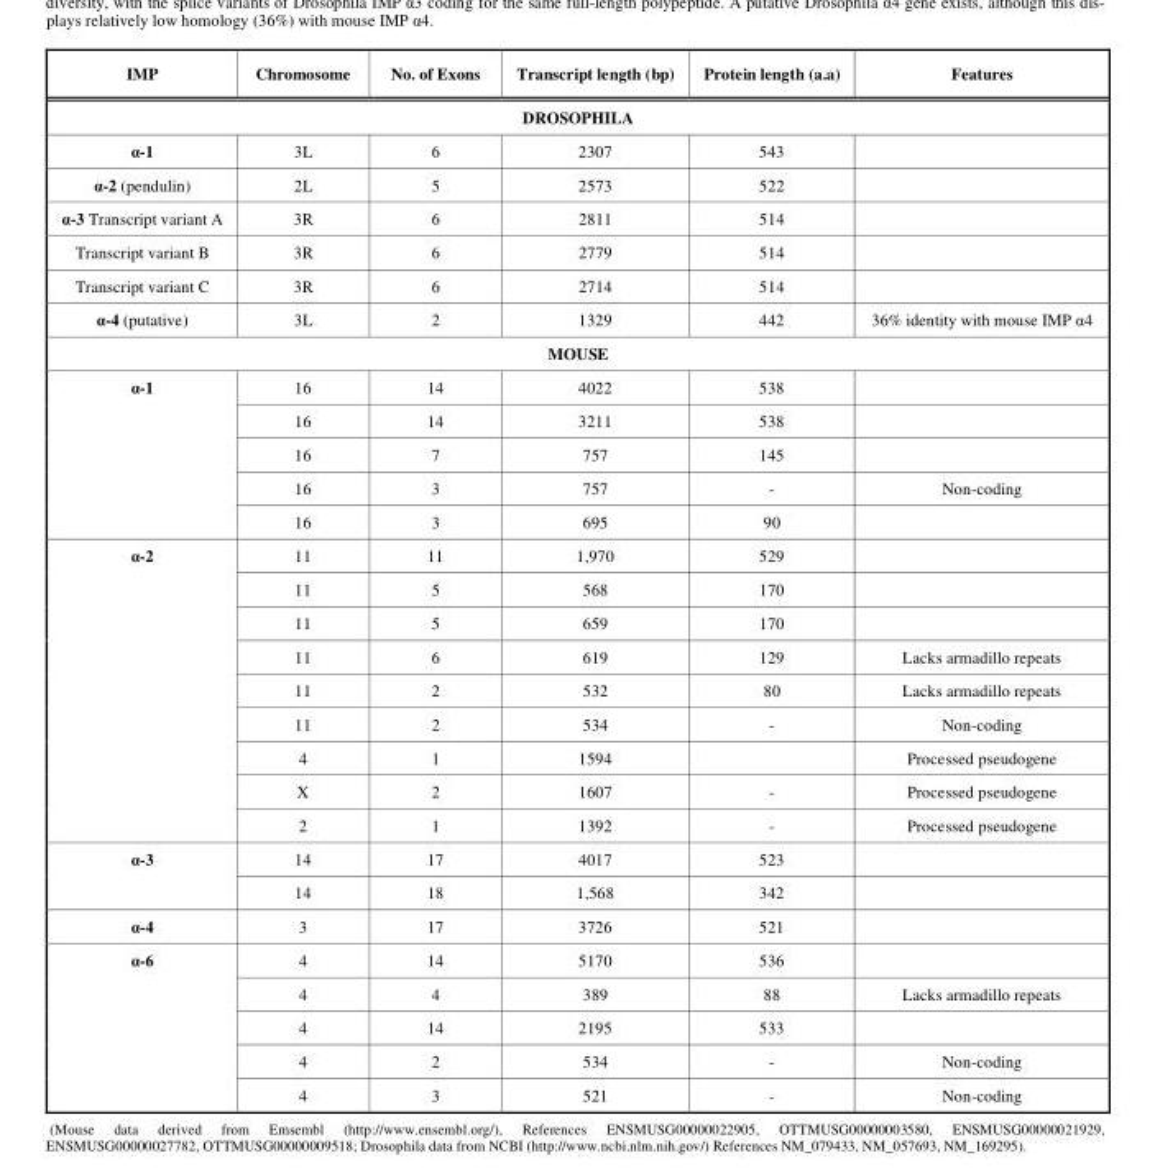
<table><thead><tr><td>IMP</td><td>Chromosome</td><td>No. of Exons</td><td>Transcript length (bp)</td><td>Protein length (a.a)</td><td>Features</td></tr></thead><tbody><tr><td colspan="6">DROSOPHILA</td></tr><tr><td>α-1</td><td>3L</td><td>6</td><td>2307</td><td>543</td><td></td></tr><tr><td>α-2 (pendulin)</td><td>2L</td><td>5</td><td>2573</td><td>522</td><td></td></tr><tr><td>α-3 Transcript variant A</td><td>3R</td><td>6</td><td>2811</td><td>514</td><td></td></tr><tr><td>Transcript variant B</td><td>3R</td><td>6</td><td>2779</td><td>514</td><td></td></tr><tr><td>Transcript variant C</td><td>3R</td><td>6</td><td>2714</td><td>514</td><td></td></tr><tr><td>α-4 (putative)</td><td>3L</td><td>2</td><td>1329</td><td>442</td><td>36% identity with mouse IMP α4</td></tr><tr><td colspan="6">MOUSE</td></tr><tr><td rowspan="5">α-1</td><td>16</td><td>14</td><td>4022</td><td>538</td><td></td></tr><tr><td>16</td><td>14</td><td>3211</td><td>538</td><td></td></tr><tr><td>16</td><td>7</td><td>757</td><td>145</td><td></td></tr><tr><td>16</td><td>3</td><td>757</td><td>-</td><td>Non-coding</td></tr><tr><td>16</td><td>3</td><td>695</td><td>90</td><td></td></tr><tr><td rowspan="9">α-2</td><td>11</td><td>11</td><td>1,970</td><td>529</td><td></td></tr><tr><td>11</td><td>5</td><td>568</td><td>170</td><td></td></tr><tr><td>11</td><td>5</td><td>659</td><td>170</td><td></td></tr><tr><td>11</td><td>6</td><td>619</td><td>129</td><td>Lacks armadillo repeats</td></tr><tr><td>11</td><td>2</td><td>532</td><td>80</td><td>Lacks armadillo repeats</td></tr><tr><td>11</td><td>2</td><td>534</td><td>-</td><td>Non-coding</td></tr><tr><td>4</td><td>1</td><td>1594</td><td></td><td>Processed pseudogene</td></tr><tr><td>X</td><td>2</td><td>1607</td><td>-</td><td>Processed pseudogene</td></tr><tr><td>2</td><td>1</td><td>1392</td><td>-</td><td>Processed pseudogene</td></tr><tr><td rowspan="2">α-3</td><td>14</td><td>17</td><td>4017</td><td>523</td><td></td></tr><tr><td>14</td><td>18</td><td>1,568</td><td>342</td><td></td></tr><tr><td>α-4</td><td>3</td><td>17</td><td>3726</td><td>521</td><td></td></tr><tr><td rowspan="5">α-6</td><td>4</td><td>14</td><td>5170</td><td>536</td><td></td></tr><tr><td>4</td><td>4</td><td>389</td><td>88</td><td>Lacks armadillo repeats</td></tr><tr><td>4</td><td>14</td><td>2195</td><td>533</td><td></td></tr><tr><td>4</td><td>2</td><td>534</td><td>-</td><td>Non-coding</td></tr><tr><td>4</td><td>3</td><td>521</td><td>-</td><td>Non-coding</td></tr></tbody></table>